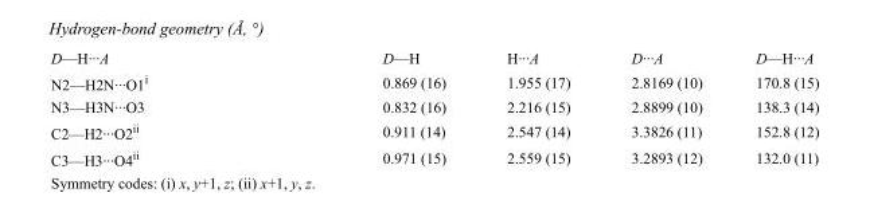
<table><tbody><tr><td>D—H···A</td><td>D—H</td><td>H···A</td><td>D···A</td><td>D—H···A</td></tr><tr><td>N2—H2N···O1<sup>i</sup></td><td>0.869 (16)</td><td>1.955 (17)</td><td>2.8169 (10)</td><td>170.8 (15)</td></tr><tr><td>N3—H3N···O3</td><td>0.832 (16)</td><td>2.216 (15)</td><td>2.8899 (10)</td><td>138.3 (14)</td></tr><tr><td>C2—H2···O2<sup>ii</sup></td><td>0.911 (14)</td><td>2.547 (14)</td><td>3.3826 (11)</td><td>152.8 (12)</td></tr><tr><td>C3—H3···O4<sup>ii</sup></td><td>0.971 (15)</td><td>2.559 (15)</td><td>3.2893 (12)</td><td>132.0 (11)</td></tr></tbody></table>